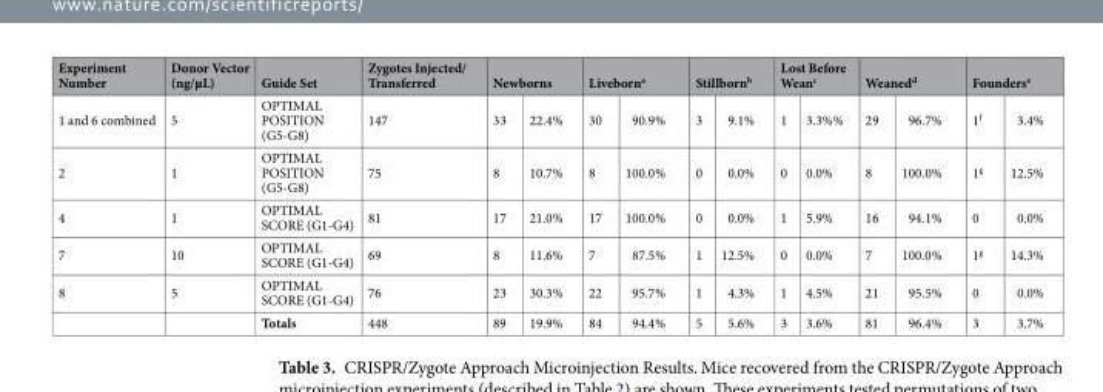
<table><thead><tr><td rowspan="2">Experiment Number 1 and 6 combined</td><td rowspan="2">Donor Vector (ng/µL) 5</td><td rowspan="2">Guide Set OPTIMAL POSITION (G5-G8)</td><td rowspan="2">Zygotes Injected/ Transferred 147</td><td colspan="2">Newborns</td><td colspan="2">Liveborn<sup>a</sup></td><td colspan="2">Stillborn<sup>b</sup></td><td colspan="2">Lost Before Wean<sup>c</sup></td><td colspan="2">Weaned<sup>d</sup></td><td colspan="2">Founders<sup>e</sup></td></tr><tr><td>33</td><td>22.4%</td><td>30</td><td>90.9%</td><td>3</td><td>9.1%</td><td>1</td><td>3.3%%</td><td>29</td><td>96.7%</td><td>1<sup>f</sup></td><td>3.4%</td></tr></thead><tbody><tr><td>2</td><td>1</td><td>OPTIMAL POSITION (G5-G8)</td><td>75</td><td>8</td><td>10.7%</td><td>8</td><td>100.0%</td><td>0</td><td>0.0%</td><td>0</td><td>0.0%</td><td>8</td><td>100.0%</td><td>1<sup>g</sup></td><td>12.5%</td></tr><tr><td>4</td><td>1</td><td>OPTIMAL SCORE (G1-G4)</td><td>81</td><td>17</td><td>21.0%</td><td>17</td><td>100.0%</td><td>0</td><td>0.0%</td><td>1</td><td>5.9%</td><td>16</td><td>94.1%</td><td>0</td><td>0.0%</td></tr><tr><td>7</td><td>10</td><td>OPTIMAL SCORE (G1-G4)</td><td>69</td><td>8</td><td>11.6%</td><td>7</td><td>87.5%</td><td>1</td><td>12.5%</td><td>0</td><td>0.0%</td><td>7</td><td>100.0%</td><td>1<sup>g</sup></td><td>14.3%</td></tr><tr><td rowspan="2">8</td><td>5</td><td>OPTIMAL SCORE (G1-G4)</td><td>76</td><td>23</td><td>30.3%</td><td>22</td><td>95.7%</td><td>1</td><td>4.3%</td><td>1</td><td>4.5%</td><td>21</td><td>95.5%</td><td>0</td><td>0.0%</td></tr><tr><td></td><td>Totals</td><td>448</td><td>89</td><td>19.9%</td><td>84</td><td>94.4%</td><td>5</td><td>5.6%</td><td>3</td><td>3.6%</td><td>81</td><td>96.4%</td><td>3</td><td>3.7%</td></tr></tbody></table>